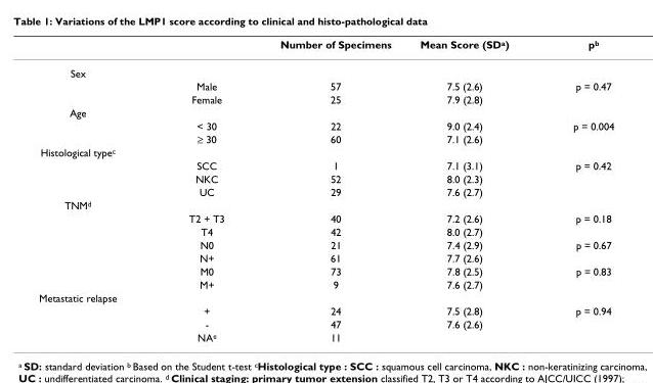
<table><thead><tr><td></td><td></td><td>Number of Specimens</td><td>Mean Score (SD<sup>a</sup>)</td><td>p<sup>b</sup></td></tr></thead><tbody><tr><td colspan="5">Sex</td></tr><tr><td></td><td>Male</td><td>57</td><td>7.5 (2.6)</td><td>p = 0.47</td></tr><tr><td></td><td>Female</td><td>25</td><td>7.9 (2.8)</td><td></td></tr><tr><td colspan="5">Age</td></tr><tr><td></td><td>&lt; 30</td><td>22</td><td>9.0 (2.4)</td><td>p = 0.004</td></tr><tr><td></td><td>≥ 30</td><td>60</td><td>7.1 (2.6)</td><td></td></tr><tr><td colspan="5">Histological type<sup>c</sup></td></tr><tr><td></td><td>SCC</td><td>1</td><td>7.1 (3.1)</td><td>p = 0.42</td></tr><tr><td></td><td>NKC</td><td>52</td><td>8.0 (2.3)</td><td></td></tr><tr><td></td><td>UC</td><td>29</td><td>7.6 (2.7)</td><td></td></tr><tr><td colspan="5">TNM<sup>d</sup></td></tr><tr><td></td><td>T2 + T3</td><td>40</td><td>7.2 (2.6)</td><td>p = 0.18</td></tr><tr><td></td><td>T4</td><td>42</td><td>8.0 (2.7)</td><td></td></tr><tr><td></td><td>N0</td><td>21</td><td>7.4 (2.9)</td><td>p = 0.67</td></tr><tr><td></td><td>N+</td><td>61</td><td>7.7 (2.6)</td><td></td></tr><tr><td></td><td>M0</td><td>73</td><td>7.8 (2.5)</td><td>p = 0.83</td></tr><tr><td></td><td>M+</td><td>9</td><td>7.6 (2.7)</td><td></td></tr><tr><td colspan="5">Metastatic relapse</td></tr><tr><td></td><td>+</td><td>24</td><td>7.5 (2.8)</td><td>p = 0.94</td></tr><tr><td></td><td>-</td><td>47</td><td>7.6 (2.6)</td><td></td></tr><tr><td></td><td>NA<sup>e</sup></td><td>11</td><td></td><td></td></tr></tbody></table>